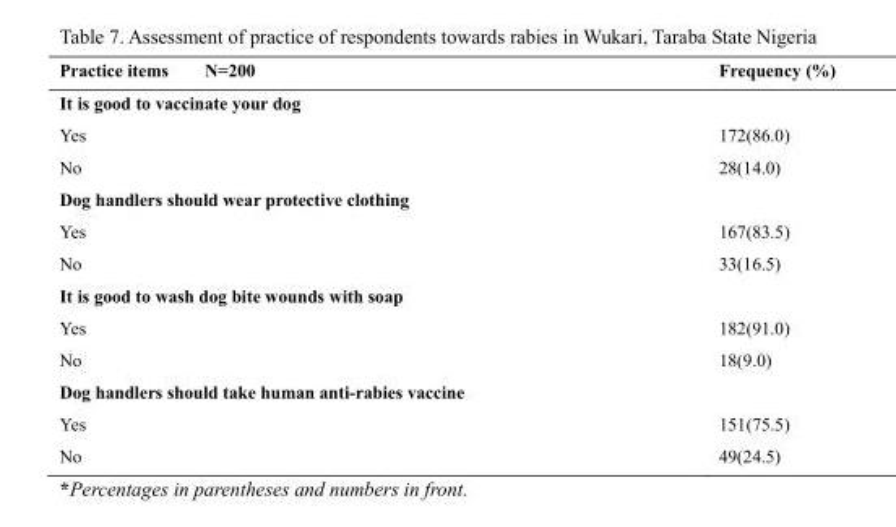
<table><thead><tr><td>Practice items N=200</td><td>Frequency (%)</td></tr></thead><tbody><tr><td colspan="2">It is good to vaccinate your dog</td></tr><tr><td>Yes</td><td>172(86.0)</td></tr><tr><td>No</td><td>28(14.0)</td></tr><tr><td colspan="2">Dog handlers should wear protective clothing</td></tr><tr><td>Yes</td><td>167(83.5)</td></tr><tr><td>No</td><td>33(16.5)</td></tr><tr><td colspan="2">It is good to wash dog bite wounds with soap</td></tr><tr><td>Yes</td><td>182(91.0)</td></tr><tr><td>No</td><td>18(9.0)</td></tr><tr><td colspan="2">Dog handlers should take human anti-rabies vaccine</td></tr><tr><td>Yes</td><td>151(75.5)</td></tr><tr><td>No</td><td>49(24.5)</td></tr></tbody></table>